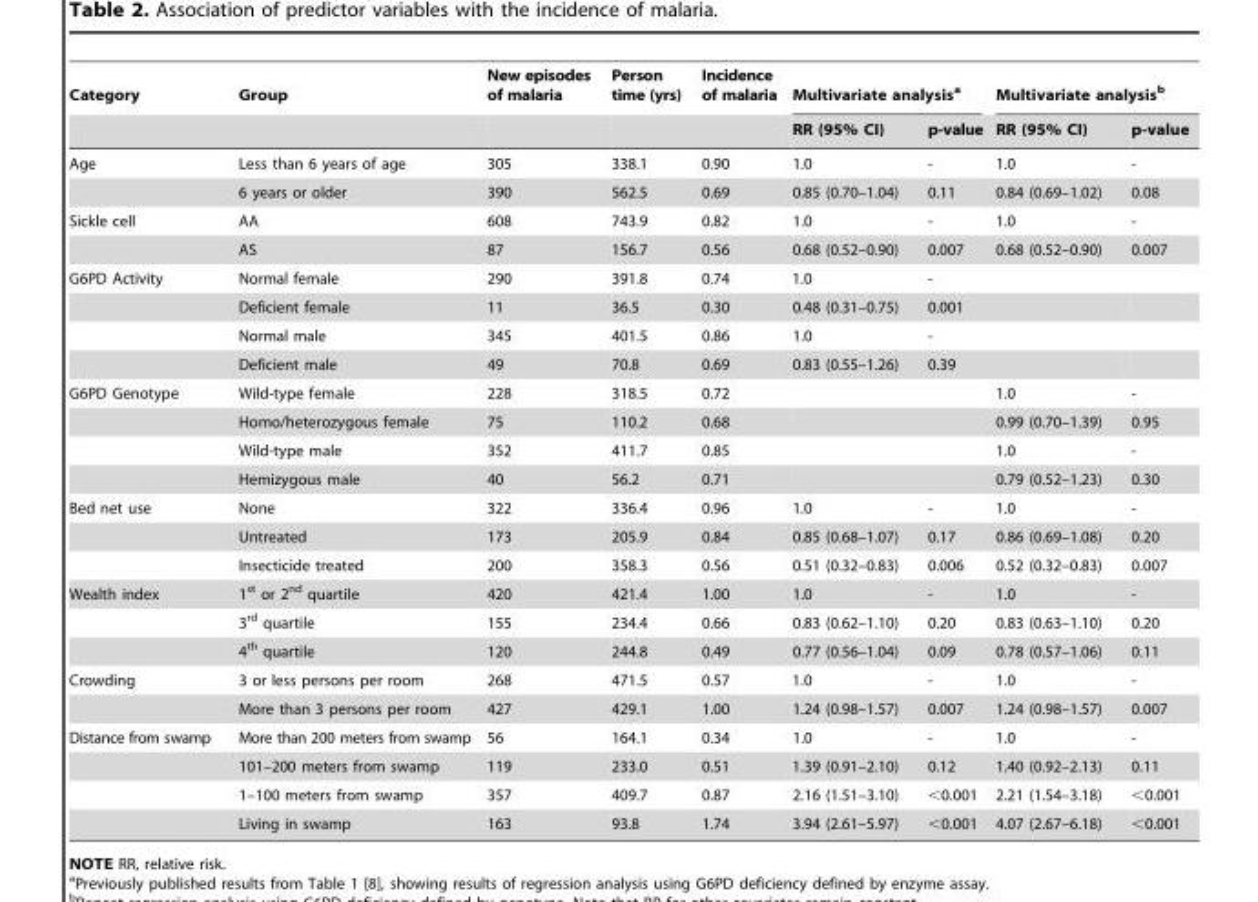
<table><thead><tr><td rowspan="2">Category</td><td rowspan="2">Group</td><td rowspan="2">New episodes of malaria</td><td rowspan="2">Person time (yrs)</td><td rowspan="2">Incidence of malaria</td><td colspan="2">Multivariate analysis<sup>a</sup></td><td colspan="2">Multivariate analysis<sup>b</sup></td></tr><tr><td>RR (95% CI)</td><td>p-value</td><td>RR (95% CI)</td><td>p-value</td></tr></thead><tbody><tr><td rowspan="2">Age</td><td>Less than 6 years of age</td><td>305</td><td>338.1</td><td>0.90</td><td>1.0</td><td>-</td><td>1.0</td><td>-</td></tr><tr><td>6 years or older</td><td>390</td><td>562.5</td><td>0.69</td><td>0.85 (0.70–1.04)</td><td>0.11</td><td>0.84 (0.69–1.02)</td><td>0.08</td></tr><tr><td rowspan="2">Sickle cell</td><td>AA</td><td>608</td><td>743.9</td><td>0.82</td><td>1.0</td><td>-</td><td>1.0</td><td>-</td></tr><tr><td>AS</td><td>87</td><td>156.7</td><td>0.56</td><td>0.68 (0.52–0.90)</td><td>0.007</td><td>0.68 (0.52–0.90)</td><td>0.007</td></tr><tr><td rowspan="4">G6PD Activity</td><td>Normal female</td><td>290</td><td>391.8</td><td>0.74</td><td>1.0</td><td>-</td><td></td><td></td></tr><tr><td>Deficient female</td><td>11</td><td>36.5</td><td>0.30</td><td>0.48 (0.31–0.75)</td><td>0.001</td><td></td><td></td></tr><tr><td>Normal male</td><td>345</td><td>401.5</td><td>0.86</td><td>1.0</td><td>-</td><td></td><td></td></tr><tr><td>Deficient male</td><td>49</td><td>70.8</td><td>0.69</td><td>0.83 (0.55–1.26)</td><td>0.39</td><td></td><td></td></tr><tr><td rowspan="4">G6PD Genotype</td><td>Wild-type female</td><td>228</td><td>318.5</td><td>0.72</td><td></td><td></td><td>1.0</td><td>-</td></tr><tr><td>Homo/heterozygous female</td><td>75</td><td>110.2</td><td>0.68</td><td></td><td></td><td>0.99 (0.70–1.39)</td><td>0.95</td></tr><tr><td>Wild-type male</td><td>352</td><td>411.7</td><td>0.85</td><td></td><td></td><td>1.0</td><td>-</td></tr><tr><td>Hemizygous male</td><td>40</td><td>56.2</td><td>0.71</td><td></td><td></td><td>0.79 (0.52–1.23)</td><td>0.30</td></tr><tr><td rowspan="3">Bed net use</td><td>None</td><td>322</td><td>336.4</td><td>0.96</td><td>1.0</td><td>-</td><td>1.0</td><td>-</td></tr><tr><td>Untreated</td><td>173</td><td>205.9</td><td>0.84</td><td>0.85 (0.68–1.07)</td><td>0.17</td><td>0.86 (0.69–1.08)</td><td>0.20</td></tr><tr><td>Insecticide treated</td><td>200</td><td>358.3</td><td>0.56</td><td>0.51 (0.32–0.83)</td><td>0.006</td><td>0.52 (0.32–0.83)</td><td>0.007</td></tr><tr><td rowspan="3">Wealth index</td><td>1<sup>st</sup> or 2<sup>nd</sup> quartile</td><td>420</td><td>421.4</td><td>1.00</td><td>1.0</td><td>-</td><td>1.0</td><td>-</td></tr><tr><td>3<sup>rd</sup> quartile</td><td>155</td><td>234.4</td><td>0.66</td><td>0.83 (0.62–1.10)</td><td>0.20</td><td>0.83 (0.63–1.10)</td><td>0.20</td></tr><tr><td>4<sup>th</sup> quartile</td><td>120</td><td>244.8</td><td>0.49</td><td>0.77 (0.56–1.04)</td><td>0.09</td><td>0.78 (0.57–1.06)</td><td>0.11</td></tr><tr><td rowspan="2">Crowding</td><td>3 or less persons per room</td><td>268</td><td>471.5</td><td>0.57</td><td>1.0</td><td>-</td><td>1.0</td><td>-</td></tr><tr><td>More than 3 persons per room</td><td>427</td><td>429.1</td><td>1.00</td><td>1.24 (0.98–1.57)</td><td>0.007</td><td>1.24 (0.98–1.57)</td><td>0.007</td></tr><tr><td rowspan="4">Distance from swamp</td><td>More than 200 meters from swamp</td><td>56</td><td>164.1</td><td>0.34</td><td>1.0</td><td>-</td><td>1.0</td><td>-</td></tr><tr><td>101–200 meters from swamp</td><td>119</td><td>233.0</td><td>0.51</td><td>1.39 (0.91–2.10)</td><td>0.12</td><td>1.40 (0.92–2.13)</td><td>0.11</td></tr><tr><td>1–100 meters from swamp</td><td>357</td><td>409.7</td><td>0.87</td><td>2.16 (1.51–3.10)</td><td>&lt;0.001</td><td>2.21 (1.54–3.18)</td><td>&lt;0.001</td></tr><tr><td>Living in swamp</td><td>163</td><td>93.8</td><td>1.74</td><td>3.94 (2.61–5.97)</td><td>&lt;0.001</td><td>4.07 (2.67–6.18)</td><td>&lt;0.001</td></tr></tbody></table>